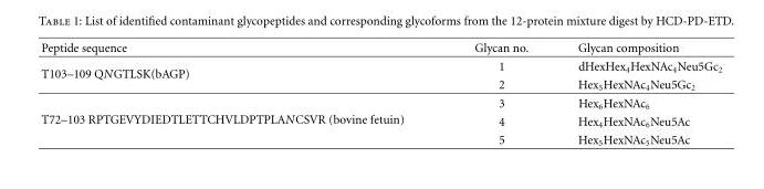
<table><thead><tr><td>Peptide sequence</td><td>Glycan no.</td><td>Glycan composition</td></tr></thead><tbody><tr><td rowspan="2">T103–109 QNGTLSK(bAGP)</td><td>1</td><td>dHexHex<sub>4</sub>HexNAc<sub>4</sub>Neu5Gc<sub>2</sub></td></tr><tr><td>2</td><td>Hex<sub>5</sub>HexNAc<sub>4</sub>Neu5Gc<sub>2</sub></td></tr><tr><td rowspan="3">T72–103 RPTGEVYDIEDTLETTCHVLDPTPLANCSVR (bovine fetuin)</td><td>3</td><td>Hex<sub>6</sub>HexNAc<sub>6</sub></td></tr><tr><td>4</td><td>Hex<sub>4</sub>HexNAc<sub>6</sub>Neu5Ac</td></tr><tr><td>5</td><td>Hex<sub>5</sub>HexNAc<sub>5</sub>Neu5Ac</td></tr></tbody></table>